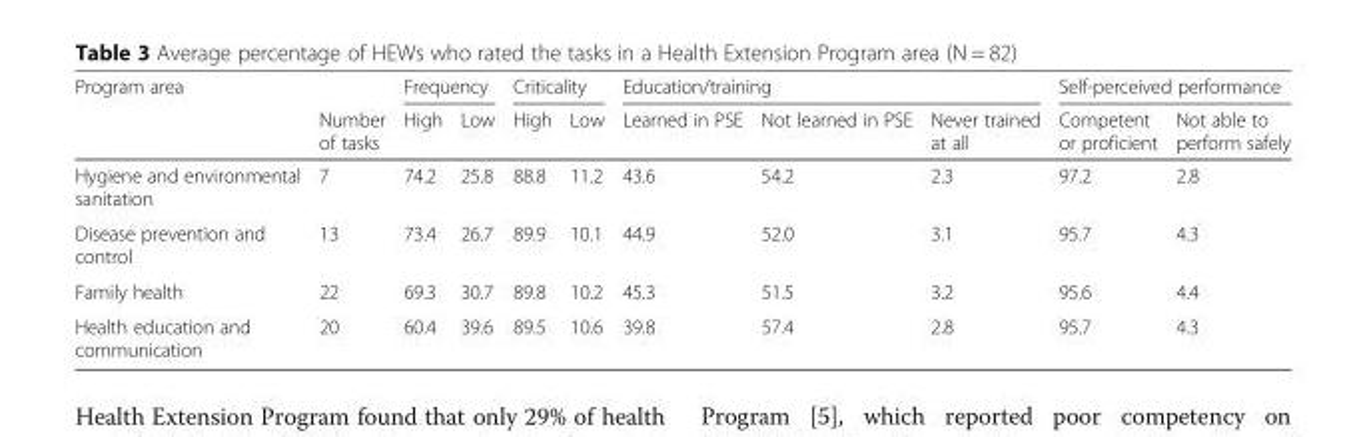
<table><thead><tr><td rowspan="2">Program area</td><td rowspan="2">Number of tasks</td><td colspan="2">Frequency</td><td colspan="2">Criticality</td><td colspan="3">Education/training</td><td colspan="2">Self-perceived performance</td></tr><tr><td>High</td><td>Low</td><td>High</td><td>Low</td><td>Learned in PSE</td><td>Not learned in PSE</td><td>Never trained at all</td><td>Competent or proficient</td><td>Not able to perform safely</td></tr></thead><tbody><tr><td>Hygiene and environmental sanitation</td><td>7</td><td>74.2</td><td>25.8</td><td>88.8</td><td>11.2</td><td>43.6</td><td>54.2</td><td>2.3</td><td>97.2</td><td>2.8</td></tr><tr><td>Disease prevention and control</td><td>13</td><td>73.4</td><td>26.7</td><td>89.9</td><td>10.1</td><td>44.9</td><td>52.0</td><td>3.1</td><td>95.7</td><td>4.3</td></tr><tr><td>Family health</td><td>22</td><td>69.3</td><td>30.7</td><td>89.8</td><td>10.2</td><td>45.3</td><td>51.5</td><td>3.2</td><td>95.6</td><td>4.4</td></tr><tr><td>Health education and communication</td><td>20</td><td>60.4</td><td>39.6</td><td>89.5</td><td>10.6</td><td>39.8</td><td>57.4</td><td>2.8</td><td>95.7</td><td>4.3</td></tr></tbody></table>